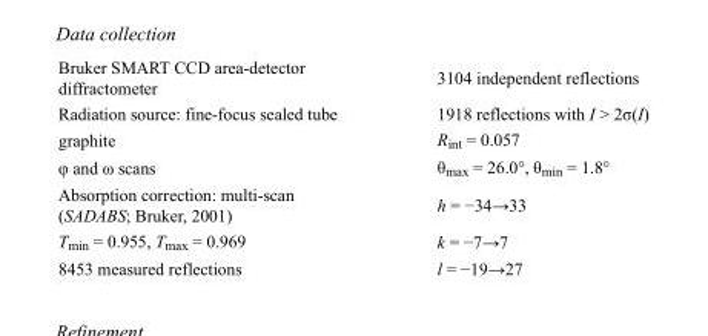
<table><tbody><tr><td>Bruker SMART CCD area-detector diffractometer</td><td>3104 independent reflections</td></tr><tr><td>Radiation source: fine-focus sealed tube</td><td>1918 reflections with I &gt; 2σ(I)</td></tr><tr><td>graphite</td><td>R<sub>int</sub> = 0.057</td></tr><tr><td>φ and ω scans</td><td>θ<sub>max</sub> = 26.0°, θ<sub>min</sub> = 1.8°</td></tr><tr><td>Absorption correction: multi-scan (SADABS; Bruker, 2001)</td><td>h = −34→33</td></tr><tr><td>T<sub>min</sub> = 0.955, T<sub>max</sub> = 0.969</td><td>k = −7→7</td></tr><tr><td>8453 measured reflections</td><td>l = −19→27</td></tr></tbody></table>